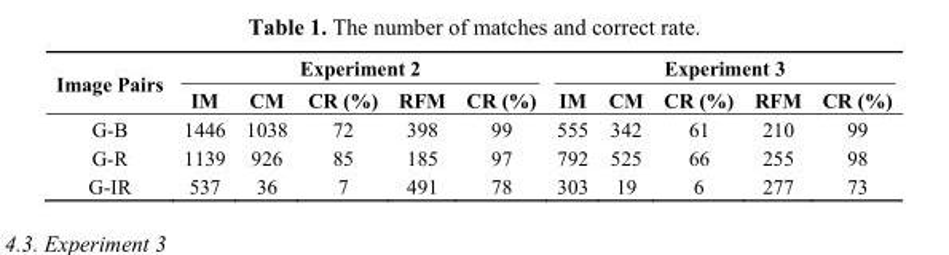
<table><thead><tr><td rowspan="2">Image Pairs</td><td colspan="5">Experiment 2</td><td colspan="5">Experiment 3</td></tr><tr><td>IM</td><td>CM</td><td>CR (%)</td><td>RFM</td><td>CR (%)</td><td>IM</td><td>CM</td><td>CR (%)</td><td>RFM</td><td>CR (%)</td></tr></thead><tbody><tr><td>G-B</td><td>1446</td><td>1038</td><td>72</td><td>398</td><td>99</td><td>555</td><td>342</td><td>61</td><td>210</td><td>99</td></tr><tr><td>G-R</td><td>1139</td><td>926</td><td>85</td><td>185</td><td>97</td><td>792</td><td>525</td><td>66</td><td>255</td><td>98</td></tr><tr><td>G-IR</td><td>537</td><td>36</td><td>7</td><td>491</td><td>78</td><td>303</td><td>19</td><td>6</td><td>277</td><td>73</td></tr></tbody></table>